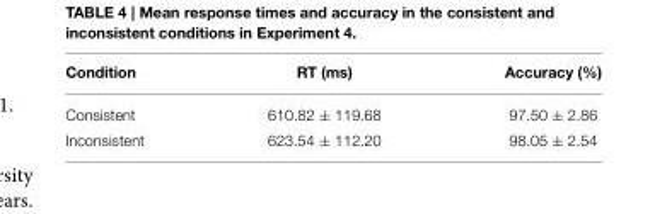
<table><thead><tr><td>Condition</td><td>RT (ms)</td><td>Accuracy (%)</td></tr></thead><tbody><tr><td>Consistent</td><td>610.82 ± 119.68</td><td>97.50 ± 2.86</td></tr><tr><td>Inconsistent</td><td>623.54 ± 112.20</td><td>98.05 ± 2.54</td></tr></tbody></table>